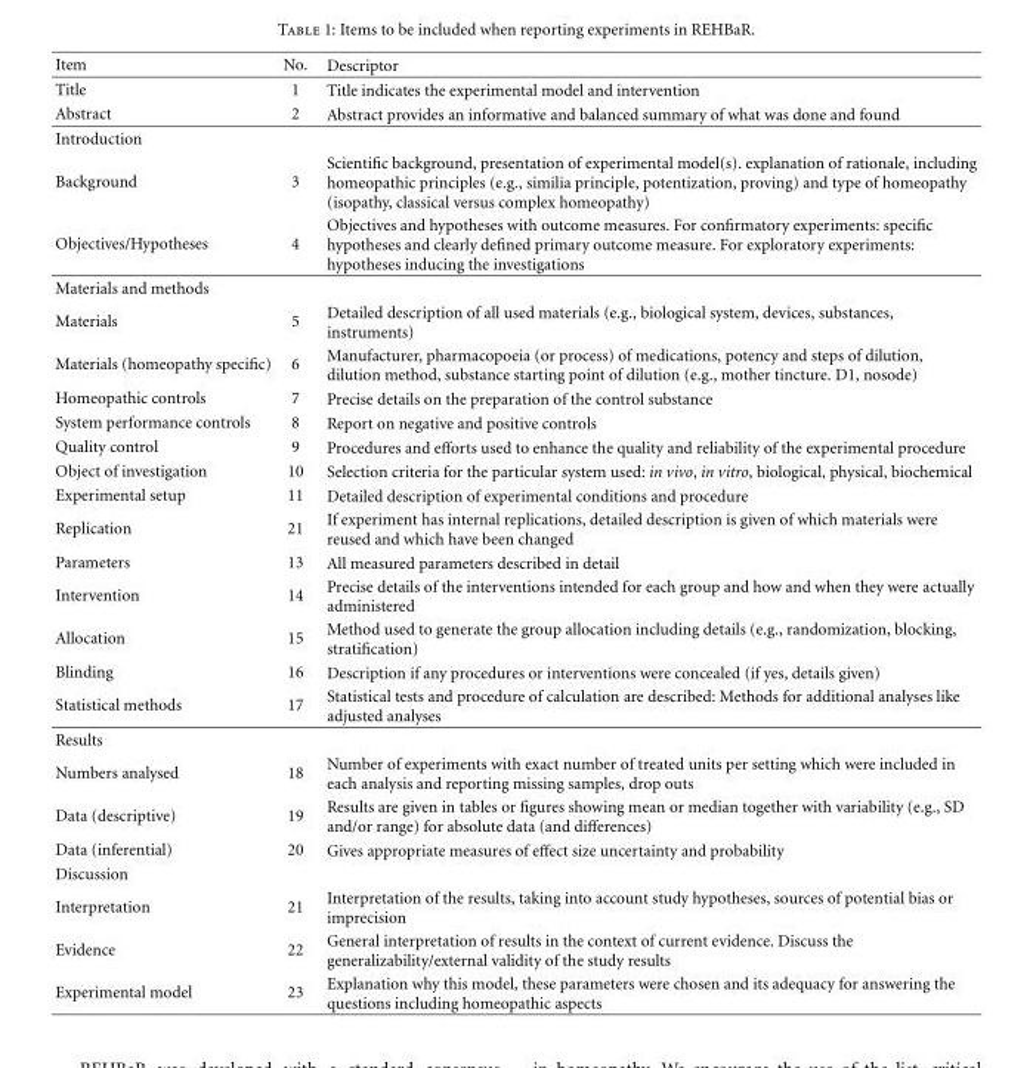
<table><thead><tr><td>Item</td><td>No.</td><td>Descriptor</td></tr></thead><tbody><tr><td>Title</td><td>1</td><td>Title indicates the experimental model and intervention</td></tr><tr><td>Abstract</td><td>2</td><td>Abstract provides an informative and balanced summary of what was done and found</td></tr><tr><td colspan="3">Introduction</td></tr><tr><td>Background</td><td>3</td><td>Scientific background, presentation of experimental model(s). explanation of rationale, including homeopathic principles (e.g., similia principle, potentization, proving) and type of homeopathy (isopathy, classical versus complex homeopathy)</td></tr><tr><td>Objectives/Hypotheses</td><td>4</td><td>Objectives and hypotheses with outcome measures. For confirmatory experiments: specific hypotheses and clearly defined primary outcome measure. For exploratory experiments: hypotheses inducing the investigations</td></tr><tr><td colspan="3">Materials and methods</td></tr><tr><td>Materials</td><td>5</td><td>Detailed description of all used materials (e.g., biological system, devices, substances, instruments)</td></tr><tr><td>Materials (homeopathy specific)</td><td>6</td><td>Manufacturer, pharmacopoeia (or process) of medications, potency and steps of dilution, dilution method, substance starting point of dilution (e.g., mother tincture. D1, nosode)</td></tr><tr><td>Homeopathic controls</td><td>7</td><td>Precise details on the preparation of the control substance</td></tr><tr><td>System performance controls</td><td>8</td><td>Report on negative and positive controls</td></tr><tr><td>Quality control</td><td>9</td><td>Procedures and efforts used to enhance the quality and reliability of the experimental procedure</td></tr><tr><td>Object of investigation</td><td>10</td><td>Selection criteria for the particular system used: in vivo, in vitro, biological, physical, biochemical</td></tr><tr><td>Experimental setup</td><td>11</td><td>Detailed description of experimental conditions and procedure</td></tr><tr><td>Replication</td><td>21</td><td>If experiment has internal replications, detailed description is given of which materials were reused and which have been changed</td></tr><tr><td>Parameters</td><td>13</td><td>All measured parameters described in detail</td></tr><tr><td>Intervention</td><td>14</td><td>Precise details of the interventions intended for each group and how and when they were actually administered</td></tr><tr><td>Allocation</td><td>15</td><td>Method used to generate the group allocation including details (e.g., randomization, blocking, stratification)</td></tr><tr><td>Blinding</td><td>16</td><td>Description if any procedures or interventions were concealed (if yes, details given)</td></tr><tr><td>Statistical methods</td><td>17</td><td>Statistical tests and procedure of calculation are described: Methods for additional analyses like adjusted analyses</td></tr><tr><td colspan="3">Results</td></tr><tr><td>Numbers analysed</td><td>18</td><td>Number of experiments with exact number of treated units per setting which were included in each analysis and reporting missing samples, drop outs</td></tr><tr><td>Data (descriptive)</td><td>19</td><td>Results are given in tables or figures showing mean or median together with variability (e.g., SD and/or range) for absolute data (and differences)</td></tr><tr><td>Data (inferential)</td><td>20</td><td>Gives appropriate measures of effect size uncertainty and probability</td></tr><tr><td colspan="3">Discussion</td></tr><tr><td>Interpretation</td><td>21</td><td>Interpretation of the results, taking into account study hypotheses, sources of potential bias or imprecision</td></tr><tr><td>Evidence</td><td>22</td><td>General interpretation of results in the context of current evidence. Discuss the generalizability/external validity of the study results</td></tr><tr><td>Experimental model</td><td>23</td><td>Explanation why this model, these parameters were chosen and its adequacy for answering the questions including homeopathic aspects</td></tr></tbody></table>